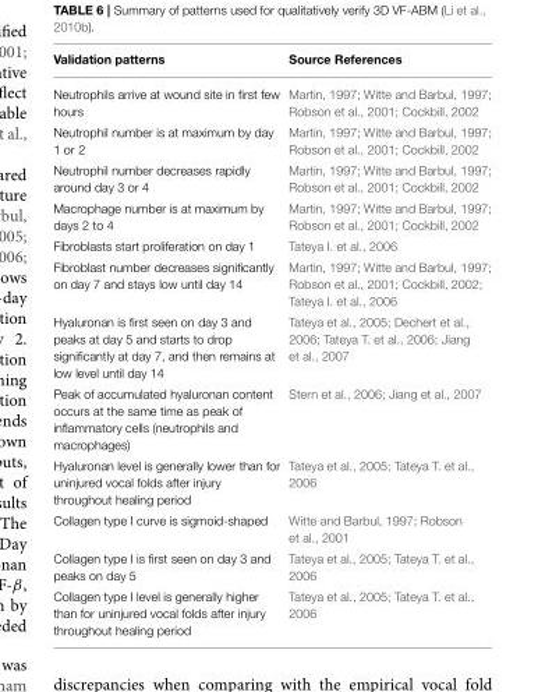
<table><thead><tr><td>Validation patterns</td><td>Source References</td></tr></thead><tbody><tr><td>Neutrophils arrive at wound site in first few hours</td><td>Martin, 1997; Witte and Barbul, 1997; Robson et al., 2001; Cockbill, 2002</td></tr><tr><td>Neutrophil number is at maximum by day 1 or 2</td><td>Martin, 1997; Witte and Barbul, 1997; Robson et al., 2001; Cockbill, 2002</td></tr><tr><td>Neutrophil number decreases rapidly around day 3 or 4</td><td>Martin, 1997; Witte and Barbul, 1997; Robson et al., 2001; Cockbill, 2002</td></tr><tr><td>Macrophage number is at maximum by days 2 to 4</td><td>Martin, 1997; Witte and Barbul, 1997; Robson et al., 2001; Cockbill, 2002</td></tr><tr><td>Fibroblasts start proliferation on day 1</td><td>Tateya I. et al., 2006</td></tr><tr><td>Fibroblast number decreases significantly on day 7 and stays low until day 14</td><td>Martin, 1997; Witte and Barbul, 1997; Robson et al., 2001; Cockbill, 2002; Tateya I. et al., 2006</td></tr><tr><td>Hyaluronan is first seen on day 3 and peaks at day 5 and starts to drop significantly at day 7, and then remains at low level until day 14</td><td>Tateya et al., 2005; Dechert et al., 2006; Tateya T. et al., 2006; Jiang et al., 2007</td></tr><tr><td>Peak of accumulated hyaluronan content occurs at the same time as peak of inflammatory cells (neutrophils and macrophages)</td><td>Stern et al., 2006; Jiang et al., 2007</td></tr><tr><td>Hyaluronan level is generally lower than for uninjured vocal folds after injury throughout healing period</td><td>Tateya et al., 2005; Tateya T. et al., 2006</td></tr><tr><td>Collagen type I curve is sigmoid-shaped</td><td>Witte and Barbul, 1997; Robson et al., 2001</td></tr><tr><td>Collagen type I is first seen on day 3 and peaks on day 5</td><td>Tateya et al., 2005; Tateya T. et al., 2006</td></tr><tr><td>Collagen type I level is generally higher than for uninjured vocal folds after injury throughout healing period</td><td>Tateya et al., 2005; Tateya T. et al., 2006</td></tr></tbody></table>